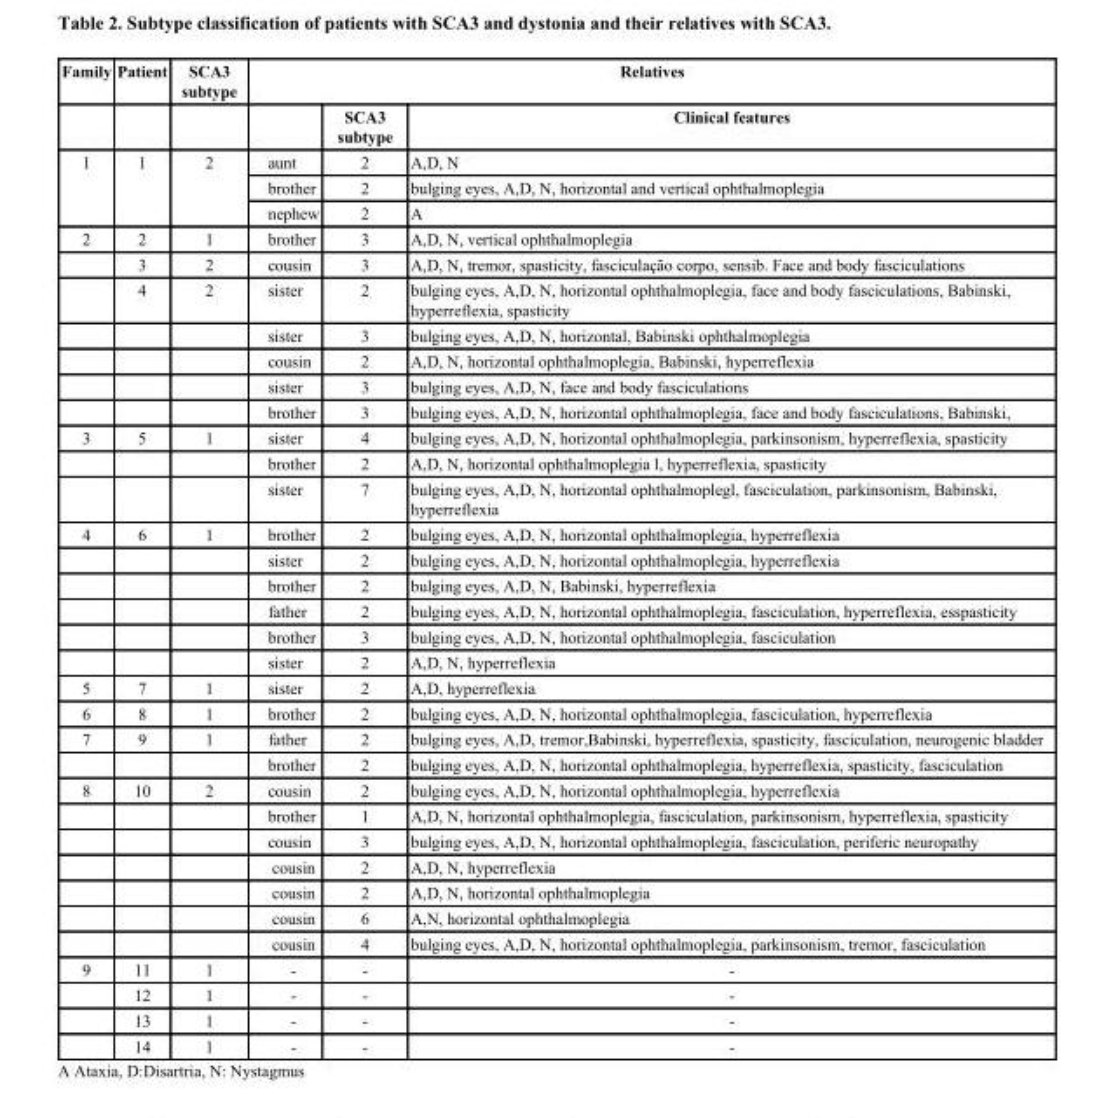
<table><thead><tr><td rowspan="2">Family</td><td rowspan="2">Patient</td><td rowspan="2">SCA3 subtype</td><td colspan="3">Relatives</td></tr><tr><td></td><td>SCA3 subtype</td><td>Clinical features</td></tr></thead><tbody><tr><td rowspan="3">1</td><td rowspan="3">1</td><td rowspan="3">2</td><td>aunt</td><td>2</td><td>A,D, N</td></tr><tr><td>brother</td><td>2</td><td>bulging eyes, A,D, N, horizontal and vertical ophthalmoplegia</td></tr><tr><td>nephew</td><td>2</td><td>A</td></tr><tr><td rowspan="7">2</td><td>2</td><td>1</td><td>brother</td><td>3</td><td>A,D, N, vertical ophthalmoplegia</td></tr><tr><td>3</td><td>2</td><td>cousin</td><td>3</td><td>A,D, N, tremor, spasticity, fasciculação corpo, sensib. Face and body fasciculations</td></tr><tr><td>4</td><td>2</td><td>sister</td><td>2</td><td>bulging eyes, A,D, N, horizontal ophthalmoplegia, face and body fasciculations, Babinski, hyperreflexia, spasticity</td></tr><tr><td></td><td></td><td>sister</td><td>3</td><td>bulging eyes, A,D, N, horizontal, Babinski ophthalmoplegia</td></tr><tr><td></td><td></td><td>cousin</td><td>2</td><td>A,D, N, horizontal ophthalmoplegia, Babinski, hyperreflexia</td></tr><tr><td></td><td></td><td>sister</td><td>3</td><td>bulging eyes, A,D, N, face and body fasciculations</td></tr><tr><td></td><td></td><td>brother</td><td>3</td><td>bulging eyes, A,D, N, horizontal ophthalmoplegia, face and body fasciculations, Babinski,</td></tr><tr><td rowspan="3">3</td><td>5</td><td>1</td><td>sister</td><td>4</td><td>bulging eyes, A,D, N, horizontal ophthalmoplegia, parkinsonism, hyperreflexia, spasticity</td></tr><tr><td></td><td></td><td>brother</td><td>2</td><td>A,D, N, horizontal ophthalmoplegia l, hyperreflexia, spasticity</td></tr><tr><td></td><td></td><td>sister</td><td>7</td><td>bulging eyes, A,D, N, horizontal ophthalmoplegl, fasciculation, parkinsonism, Babinski, hyperreflexia</td></tr><tr><td rowspan="6">4</td><td>6</td><td>1</td><td>brother</td><td>2</td><td>bulging eyes, A,D, N, horizontal ophthalmoplegia, hyperreflexia</td></tr><tr><td></td><td></td><td>sister</td><td>2</td><td>bulging eyes, A,D, N, horizontal ophthalmoplegia, hyperreflexia</td></tr><tr><td></td><td></td><td>brother</td><td>2</td><td>bulging eyes, A,D, N, Babinski, hyperreflexia</td></tr><tr><td></td><td></td><td>father</td><td>2</td><td>bulging eyes, A,D, N, horizontal ophthalmoplegia, fasciculation, hyperreflexia, esspasticity</td></tr><tr><td></td><td></td><td>brother</td><td>3</td><td>bulging eyes, A,D, N, horizontal ophthalmoplegia, fasciculation</td></tr><tr><td></td><td></td><td>sister</td><td>2</td><td>A,D, N, hyperreflexia</td></tr><tr><td>5</td><td>7</td><td>1</td><td>sister</td><td>2</td><td>A,D, hyperreflexia</td></tr><tr><td>6</td><td>8</td><td>1</td><td>brother</td><td>2</td><td>bulging eyes, A,D, N, horizontal ophthalmoplegia, fasciculation, hyperreflexia</td></tr><tr><td rowspan="2">7</td><td>9</td><td>1</td><td>father</td><td>2</td><td>bulging eyes, A,D, tremor,Babinski, hyperreflexia, spasticity, fasciculation, neurogenic bladder</td></tr><tr><td></td><td></td><td>brother</td><td>2</td><td>bulging eyes, A,D, N, horizontal ophthalmoplegia, hyperreflexia, spasticity, fasciculation</td></tr><tr><td rowspan="7">8</td><td>10</td><td>2</td><td>cousin</td><td>2</td><td>bulging eyes, A,D, N, horizontal ophthalmoplegia, hyperreflexia</td></tr><tr><td></td><td></td><td>brother</td><td>1</td><td>A,D, N, horizontal ophthalmoplegia, fasciculation, parkinsonism, hyperreflexia, spasticity</td></tr><tr><td></td><td></td><td>cousin</td><td>3</td><td>bulging eyes, A,D, N, horizontal ophthalmoplegia, fasciculation, periferic neuropathy</td></tr><tr><td></td><td></td><td>cousin</td><td>2</td><td>A,D, N, hyperreflexia</td></tr><tr><td></td><td></td><td>cousin</td><td>2</td><td>A,D, N, horizontal ophthalmoplegia</td></tr><tr><td></td><td></td><td>cousin</td><td>6</td><td>A,N, horizontal ophthalmoplegia</td></tr><tr><td></td><td></td><td>cousin</td><td>4</td><td>bulging eyes, A,D, N, horizontal ophthalmoplegia, parkinsonism, tremor, fasciculation</td></tr><tr><td rowspan="4">9</td><td>11</td><td>1</td><td>-</td><td>-</td><td>-</td></tr><tr><td>12</td><td>1</td><td>-</td><td>-</td><td>-</td></tr><tr><td>13</td><td>1</td><td>-</td><td>-</td><td>-</td></tr><tr><td>14</td><td>1</td><td>-</td><td>-</td><td>-</td></tr></tbody></table>